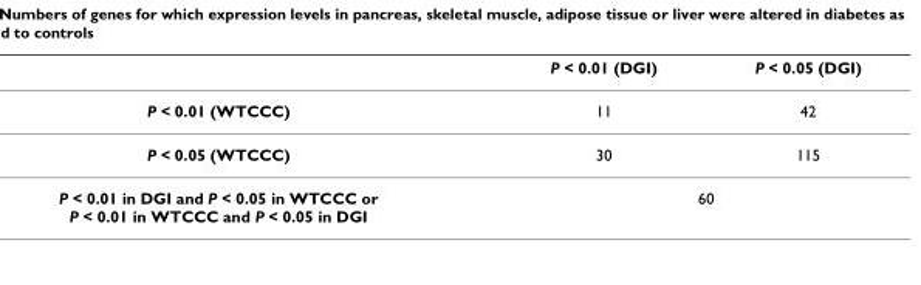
<table><thead><tr><td></td><td>P &lt; 0.01 (DGI)</td><td>P &lt; 0.05 (DGI)</td></tr></thead><tbody><tr><td>P &lt; 0.01 (WTCCC)</td><td>11</td><td>42</td></tr><tr><td>P &lt; 0.05 (WTCCC)</td><td>30</td><td>115</td></tr><tr><td>P &lt; 0.01 in DGI and P &lt; 0.05 in WTCCC or P &lt; 0.01 in WTCCC and P &lt; 0.05 in DGI</td><td colspan="2">60</td></tr></tbody></table>